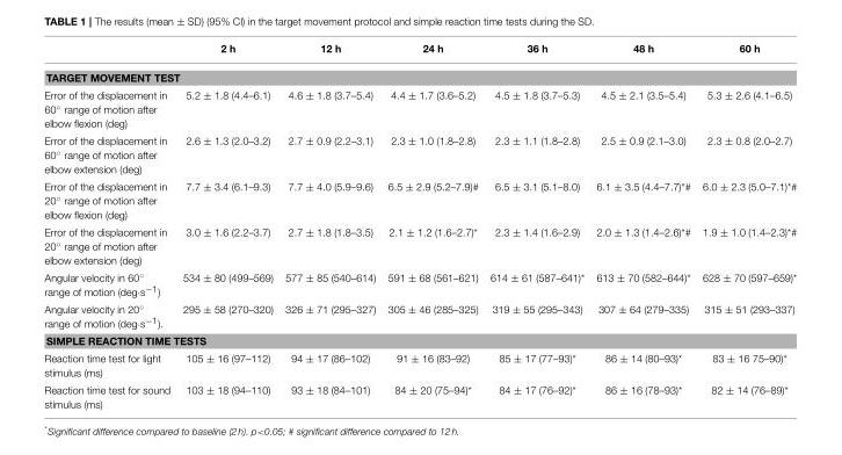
<table><thead><tr><td></td><td>2 h</td><td>12 h</td><td>24 h</td><td>36 h</td><td>48 h</td><td>60 h</td></tr></thead><tbody><tr><td colspan="7">TARGET MOVEMENT TEST</td></tr><tr><td>Error of the displacement in 60◦ range of motion after elbow flexion (deg)</td><td>5.2 ± 1.8 (4.4–6.1)</td><td>4.6 ± 1.8 (3.7–5.4)</td><td>4.4 ± 1.7 (3.6–5.2)</td><td>4.5 ± 1.8 (3.7–5.3)</td><td>4.5 ± 2.1 (3.5–5.4)</td><td>5.3 ± 2.6 (4.1–6.5)</td></tr><tr><td>Error of the displacement in 60◦ range of motion after elbow extension (deg)</td><td>2.6 ± 1.3 (2.0–3.2)</td><td>2.7 ± 0.9 (2.2–3.1)</td><td>2.3 ± 1.0 (1.8–2.8)</td><td>2.3 ± 1.1 (1.8–2.8)</td><td>2.5 ± 0.9 (2.1–3.0)</td><td>2.3 ± 0.8 (2.0–2.7)</td></tr><tr><td>Error of the displacement in 20◦ range of motion after elbow flexion (deg)</td><td>7.7 ± 3.4 (6.1–9.3)</td><td>7.7 ± 4.0 (5.9–9.6)</td><td>6.5 ± 2.9 (5.2–7.9)#</td><td>6.5 ± 3.1 (5.1–8.0)</td><td>6.1 ± 3.5 (4.4–7.7)*#</td><td>6.0 ± 2.3 (5.0–7.1)*#</td></tr><tr><td>Error of the displacement in 20◦ range of motion after elbow extension (deg)</td><td>3.0 ± 1.6 (2.2–3.7)</td><td>2.7 ± 1.8 (1.8–3.5)</td><td>2.1 ± 1.2 (1.6–2.7)*</td><td>2.3 ± 1.4 (1.6–2.9)</td><td>2.0 ± 1.3 (1.4–2.6)*#</td><td>1.9 ± 1.0 (1.4–2.3)*#</td></tr><tr><td>Angular velocity in 60◦ range of motion (deg·s−1)</td><td>534 ± 80 (499–569)</td><td>577 ± 85 (540–614)</td><td>591 ± 68 (561–621)</td><td>614 ± 61 (587–641)*</td><td>613 ± 70 (582–644)*</td><td>628 ± 70 (597–659)*</td></tr><tr><td>Angular velocity in 20◦ range of motion (deg·s−1).</td><td>295 ± 58 (270–320)</td><td>326 ± 71 (295–327)</td><td>305 ± 46 (285–325)</td><td>319 ± 55 (295–343)</td><td>307 ± 64 (279–335)</td><td>315 ± 51 (293–337)</td></tr><tr><td colspan="7">SIMPLE REACTION TIME TESTS</td></tr><tr><td>Reaction time test for light stimulus (ms)</td><td>105 ± 16 (97–112)</td><td>94 ± 17 (86–102)</td><td>91 ± 16 (83–92)</td><td>85 ± 17 (77–93)*</td><td>86 ± 14 (80–93)*</td><td>83 ± 16 75–90)*</td></tr><tr><td>Reaction time test for sound stimulus (ms)</td><td>103 ± 18 (94–110)</td><td>93 ± 18 (84–101)</td><td>84 ± 20 (75–94)*</td><td>84 ± 17 (76–92)*</td><td>86 ± 16 (78–93)*</td><td>82 ± 14 (76–89)*</td></tr></tbody></table>